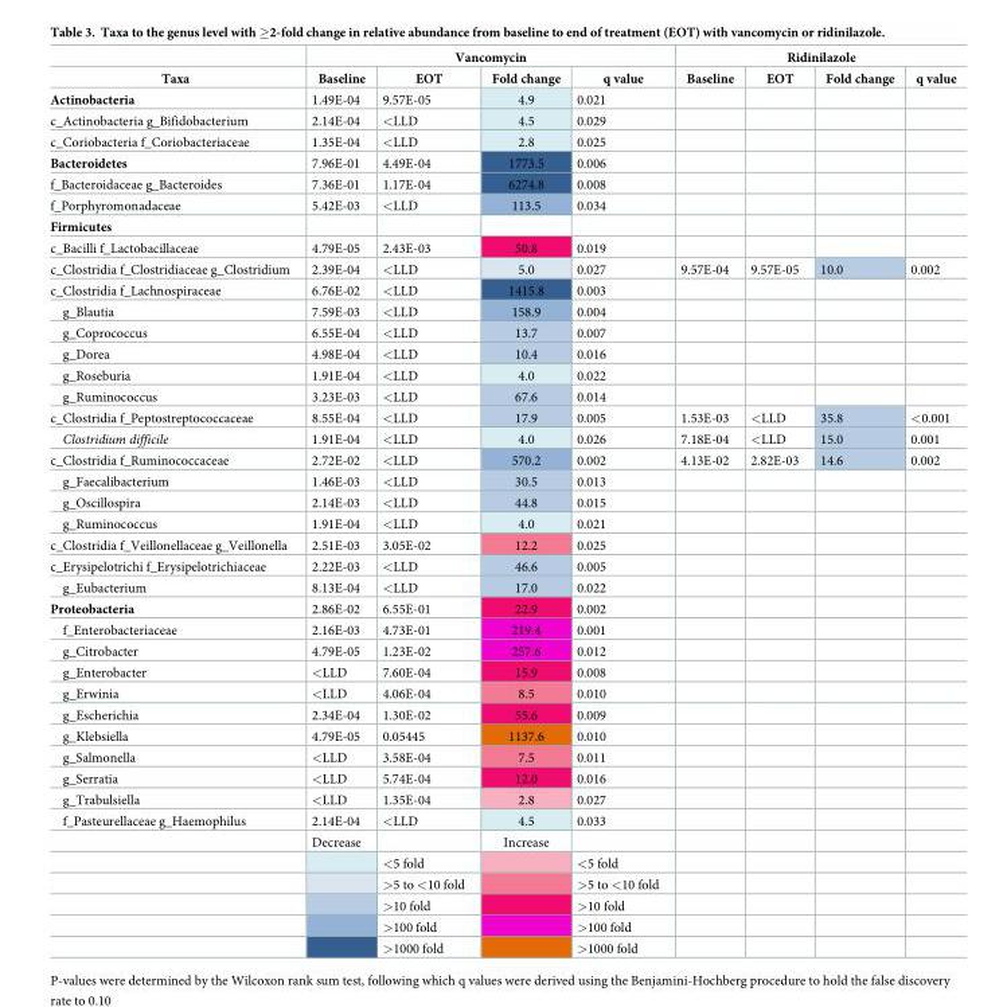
<table><thead><tr><td rowspan="2">Taxa</td><td colspan="4">Vancomycin</td><td colspan="4">Ridinilazole</td></tr><tr><td>Baseline</td><td>EOT</td><td>Fold change</td><td>q value</td><td>Baseline</td><td>EOT</td><td>Fold change</td><td>q value</td></tr></thead><tbody><tr><td>Actinobacteria</td><td>1.49E-04</td><td>9.57E-05</td><td>4.9</td><td>0.021</td><td></td><td></td><td></td><td></td></tr><tr><td>c_Actinobacteria g_Bifidobacterium</td><td>2.14E-04</td><td>&lt;LLD</td><td>4.5</td><td>0.029</td><td></td><td></td><td></td><td></td></tr><tr><td>c_Coriobacteria f_Coriobacteriaceae</td><td>1.35E-04</td><td>&lt;LLD</td><td>2.8</td><td>0.025</td><td></td><td></td><td></td><td></td></tr><tr><td>Bacteroidetes</td><td>7.96E-01</td><td>4.49E-04</td><td>1773.5</td><td>0.006</td><td></td><td></td><td></td><td></td></tr><tr><td>f_Bacteroidaceae g_Bacteroides</td><td>7.36E-01</td><td>1.17E-04</td><td>6274.8</td><td>0.008</td><td></td><td></td><td></td><td></td></tr><tr><td>f_Porphyromonadaceae</td><td>5.42E-03</td><td>&lt;LLD</td><td>113.5</td><td>0.034</td><td></td><td></td><td></td><td></td></tr><tr><td colspan="9">Firmicutes</td></tr><tr><td>c_Bacilli f_Lactobacillaceae</td><td>4.79E-05</td><td>2.43E-03</td><td>50.8</td><td>0.019</td><td></td><td></td><td></td><td></td></tr><tr><td>c_Clostridia f_Clostridiaceae g_Clostridium</td><td>2.39E-04</td><td>&lt;LLD</td><td>5.0</td><td>0.027</td><td>9.57E-04</td><td>9.57E-05</td><td>10.0</td><td>0.002</td></tr><tr><td>c_Clostridia f_Lachnospiraceae</td><td>6.76E-02</td><td>&lt;LLD</td><td>1415.8</td><td>0.003</td><td></td><td></td><td></td><td></td></tr><tr><td>g_Blautia</td><td>7.59E-03</td><td>&lt;LLD</td><td>158.9</td><td>0.004</td><td></td><td></td><td></td><td></td></tr><tr><td>g_Coprococcus</td><td>6.55E-04</td><td>&lt;LLD</td><td>13.7</td><td>0.007</td><td></td><td></td><td></td><td></td></tr><tr><td>g_Dorea</td><td>4.98E-04</td><td>&lt;LLD</td><td>10.4</td><td>0.016</td><td></td><td></td><td></td><td></td></tr><tr><td>g_Roseburia</td><td>1.91E-04</td><td>&lt;LLD</td><td>4.0</td><td>0.022</td><td></td><td></td><td></td><td></td></tr><tr><td>g_Ruminococcus</td><td>3.23E-03</td><td>&lt;LLD</td><td>67.6</td><td>0.014</td><td></td><td></td><td></td><td></td></tr><tr><td>c_Clostridia f_Peptostreptococcaceae</td><td>8.55E-04</td><td>&lt;LLD</td><td>17.9</td><td>0.005</td><td>1.53E-03</td><td>&lt;LLD</td><td>35.8</td><td>&lt;0.001</td></tr><tr><td>Clostridium difficile</td><td>1.91E-04</td><td>&lt;LLD</td><td>4.0</td><td>0.026</td><td>7.18E-04</td><td>&lt;LLD</td><td>15.0</td><td>0.001</td></tr><tr><td>c_Clostridia f_Ruminococcaceae</td><td>2.72E-02</td><td>&lt;LLD</td><td>570.2</td><td>0.002</td><td>4.13E-02</td><td>2.82E-03</td><td>14.6</td><td>0.002</td></tr><tr><td>g_Faecalibacterium</td><td>1.46E-03</td><td>&lt;LLD</td><td>30.5</td><td>0.013</td><td></td><td></td><td></td><td></td></tr><tr><td>g_Oscillospira</td><td>2.14E-03</td><td>&lt;LLD</td><td>44.8</td><td>0.015</td><td></td><td></td><td></td><td></td></tr><tr><td>g_Ruminococcus</td><td>1.91E-04</td><td>&lt;LLD</td><td>4.0</td><td>0.021</td><td></td><td></td><td></td><td></td></tr><tr><td>c_Clostridia f_Veillonellaceae g_Veillonella</td><td>2.51E-03</td><td>3.05E-02</td><td>12.2</td><td>0.025</td><td></td><td></td><td></td><td></td></tr><tr><td>c_Erysipelotrichi f_Erysipelotrichiaceae</td><td>2.22E-03</td><td>&lt;LLD</td><td>46.6</td><td>0.005</td><td></td><td></td><td></td><td></td></tr><tr><td>g_Eubacterium</td><td>8.13E-04</td><td>&lt;LLD</td><td>17.0</td><td>0.022</td><td></td><td></td><td></td><td></td></tr><tr><td>Proteobacteria</td><td>2.86E-02</td><td>6.55E-01</td><td>22.9</td><td>0.002</td><td></td><td></td><td></td><td></td></tr><tr><td>f_Enterobacteriaceae</td><td>2.16E-03</td><td>4.73E-01</td><td>219.4</td><td>0.001</td><td></td><td></td><td></td><td></td></tr><tr><td>g_Citrobacter</td><td>4.79E-05</td><td>1.23E-02</td><td>257.6</td><td>0.012</td><td></td><td></td><td></td><td></td></tr><tr><td>g_Enterobacter</td><td>&lt;LLD</td><td>7.60E-04</td><td>15.9</td><td>0.008</td><td></td><td></td><td></td><td></td></tr><tr><td>g_Erwinia</td><td>&lt;LLD</td><td>4.06E-04</td><td>8.5</td><td>0.010</td><td></td><td></td><td></td><td></td></tr><tr><td>g_Escherichia</td><td>2.34E-04</td><td>1.30E-02</td><td>55.6</td><td>0.009</td><td></td><td></td><td></td><td></td></tr><tr><td>g_Klebsiella</td><td>4.79E-05</td><td>0.05445</td><td>1137.6</td><td>0.010</td><td></td><td></td><td></td><td></td></tr><tr><td>g_Salmonella</td><td>&lt;LLD</td><td>3.58E-04</td><td>7.5</td><td>0.011</td><td></td><td></td><td></td><td></td></tr><tr><td>g_Serratia</td><td>&lt;LLD</td><td>5.74E-04</td><td>12.0</td><td>0.016</td><td></td><td></td><td></td><td></td></tr><tr><td>g_Trabulsiella</td><td>&lt;LLD</td><td>1.35E-04</td><td>2.8</td><td>0.027</td><td></td><td></td><td></td><td></td></tr><tr><td rowspan="7">f_Pasteurellaceae g_Haemophilus</td><td>2.14E-04</td><td>&lt;LLD</td><td>4.5</td><td>0.033</td><td></td><td></td><td></td><td></td></tr><tr><td>Decrease</td><td></td><td>Increase</td><td></td><td></td><td></td><td></td><td></td></tr><tr><td></td><td>&lt;5 fold</td><td></td><td>&lt;5 fold</td><td></td><td></td><td></td><td></td></tr><tr><td></td><td>&gt;5 to &lt;10 fold</td><td></td><td>&gt;5 to &lt;10 fold</td><td></td><td></td><td></td><td></td></tr><tr><td></td><td>&gt;10 fold</td><td></td><td>&gt;10 fold</td><td></td><td></td><td></td><td></td></tr><tr><td></td><td>&gt;100 fold</td><td></td><td>&gt;100 fold</td><td></td><td></td><td></td><td></td></tr><tr><td></td><td>&gt;1000 fold</td><td></td><td>&gt;1000 fold</td><td></td><td></td><td></td><td></td></tr></tbody></table>